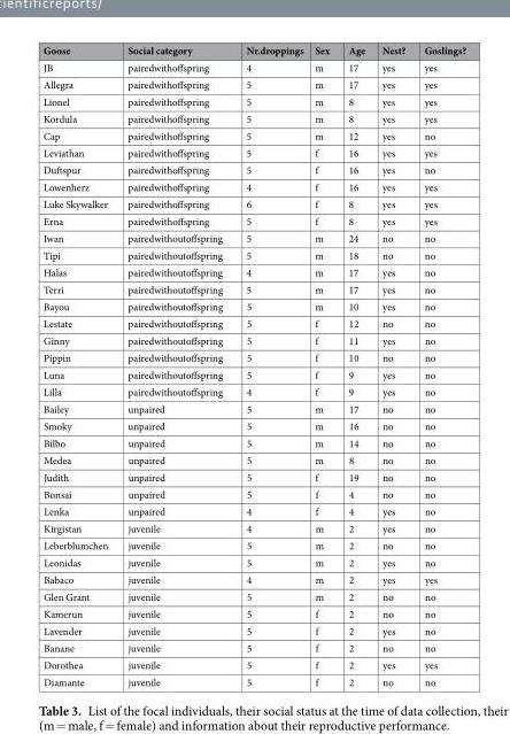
<table><thead><tr><td>Goose</td><td>Social category</td><td>Nr.droppings</td><td>Sex</td><td>Age</td><td>Nest?</td><td>Goslings?</td></tr></thead><tbody><tr><td>JB</td><td>pairedwithoffspring</td><td>4</td><td>m</td><td>17</td><td>yes</td><td>yes</td></tr><tr><td>Allegra</td><td>pairedwithoffspring</td><td>5</td><td>m</td><td>17</td><td>yes</td><td>yes</td></tr><tr><td>Lionel</td><td>pairedwithoffspring</td><td>5</td><td>m</td><td>8</td><td>yes</td><td>yes</td></tr><tr><td>Kordula</td><td>pairedwithoffspring</td><td>5</td><td>m</td><td>8</td><td>yes</td><td>yes</td></tr><tr><td>Cap</td><td>pairedwithoffspring</td><td>5</td><td>m</td><td>12</td><td>yes</td><td>no</td></tr><tr><td>Leviathan</td><td>pairedwithoffspring</td><td>5</td><td>f</td><td>16</td><td>yes</td><td>yes</td></tr><tr><td>Duftspur</td><td>pairedwithoffspring</td><td>5</td><td>f</td><td>16</td><td>yes</td><td>no</td></tr><tr><td>Lowenherz</td><td>pairedwithoffspring</td><td>4</td><td>f</td><td>16</td><td>yes</td><td>yes</td></tr><tr><td>Luke Skywalker</td><td>pairedwithoffspring</td><td>6</td><td>f</td><td>8</td><td>yes</td><td>yes</td></tr><tr><td>Erna</td><td>pairedwithoffspring</td><td>5</td><td>f</td><td>8</td><td>yes</td><td>yes</td></tr><tr><td>Iwan</td><td>pairedwithoutoffspring</td><td>5</td><td>m</td><td>24</td><td>no</td><td>no</td></tr><tr><td>Tipi</td><td>pairedwithoutoffspring</td><td>5</td><td>m</td><td>18</td><td>no</td><td>no</td></tr><tr><td>Halas</td><td>pairedwithoutoffspring</td><td>4</td><td>m</td><td>17</td><td>yes</td><td>no</td></tr><tr><td>Terri</td><td>pairedwithoutoffspring</td><td>5</td><td>m</td><td>17</td><td>yes</td><td>no</td></tr><tr><td>Bayou</td><td>pairedwithoutoffspring</td><td>5</td><td>m</td><td>10</td><td>yes</td><td>no</td></tr><tr><td>Lestate</td><td>pairedwithoutoffspring</td><td>5</td><td>f</td><td>12</td><td>no</td><td>no</td></tr><tr><td>Ginny</td><td>pairedwithoutoffspring</td><td>5</td><td>f</td><td>11</td><td>yes</td><td>no</td></tr><tr><td>Pippin</td><td>pairedwithoutoffspring</td><td>5</td><td>f</td><td>10</td><td>no</td><td>no</td></tr><tr><td>Luna</td><td>pairedwithoutoffspring</td><td>5</td><td>f</td><td>9</td><td>yes</td><td>no</td></tr><tr><td>Lilla</td><td>pairedwithoutoffspring</td><td>4</td><td>f</td><td>9</td><td>yes</td><td>no</td></tr><tr><td>Bailey</td><td>unpaired</td><td>5</td><td>m</td><td>17</td><td>no</td><td>no</td></tr><tr><td>Smoky</td><td>unpaired</td><td>5</td><td>m</td><td>16</td><td>no</td><td>no</td></tr><tr><td>Bilbo</td><td>unpaired</td><td>5</td><td>m</td><td>14</td><td>no</td><td>no</td></tr><tr><td>Medea</td><td>unpaired</td><td>5</td><td>m</td><td>8</td><td>no</td><td>no</td></tr><tr><td>Judith</td><td>unpaired</td><td>5</td><td>f</td><td>19</td><td>no</td><td>no</td></tr><tr><td>Bonsai</td><td>unpaired</td><td>5</td><td>f</td><td>4</td><td>no</td><td>no</td></tr><tr><td>Lenka</td><td>unpaired</td><td>4</td><td>f</td><td>4</td><td>yes</td><td>no</td></tr><tr><td>Kirgistan</td><td>juvenile</td><td>4</td><td>m</td><td>2</td><td>yes</td><td>no</td></tr><tr><td>Leberblumchen</td><td>juvenile</td><td>5</td><td>m</td><td>2</td><td>no</td><td>no</td></tr><tr><td>Leonidas</td><td>juvenile</td><td>5</td><td>m</td><td>2</td><td>yes</td><td>no</td></tr><tr><td>Babaco</td><td>juvenile</td><td>4</td><td>m</td><td>2</td><td>yes</td><td>yes</td></tr><tr><td>Glen Grant</td><td>juvenile</td><td>5</td><td>m</td><td>2</td><td>no</td><td>no</td></tr><tr><td>Kamerun</td><td>juvenile</td><td>5</td><td>f</td><td>2</td><td>no</td><td>no</td></tr><tr><td>Lavender</td><td>juvenile</td><td>5</td><td>f</td><td>2</td><td>yes</td><td>no</td></tr><tr><td>Banane</td><td>juvenile</td><td>5</td><td>f</td><td>2</td><td>no</td><td>no</td></tr><tr><td>Dorothea</td><td>juvenile</td><td>5</td><td>f</td><td>2</td><td>yes</td><td>yes</td></tr><tr><td>Diamante</td><td>juvenile</td><td>5</td><td>f</td><td>2</td><td>no</td><td>no</td></tr></tbody></table>